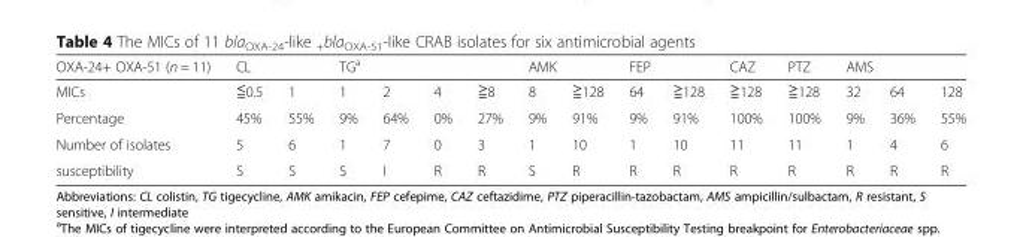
<table><thead><tr><td rowspan="2">OXA-24+ OXA-51 (n = 11) MICs</td><td colspan="2">CL</td><td colspan="4">TG<sup>a</sup></td><td colspan="2">AMK</td><td colspan="2">FEP</td><td rowspan="2">CAZ ≧128</td><td rowspan="2">PTZ ≧128</td><td colspan="3">AMS</td></tr><tr><td>≦0.5</td><td>1</td><td>1</td><td>2</td><td>4</td><td>≧8</td><td>8</td><td>≧128</td><td>64</td><td>≧128</td><td>32</td><td>64</td><td>128</td></tr></thead><tbody><tr><td>Percentage</td><td>45%</td><td>55%</td><td>9%</td><td>64%</td><td>0%</td><td>27%</td><td>9%</td><td>91%</td><td>9%</td><td>91%</td><td>100%</td><td>100%</td><td>9%</td><td>36%</td><td>55%</td></tr><tr><td>Number of isolates</td><td>5</td><td>6</td><td>1</td><td>7</td><td>0</td><td>3</td><td>1</td><td>10</td><td>1</td><td>10</td><td>11</td><td>11</td><td>1</td><td>4</td><td>6</td></tr><tr><td>susceptibility</td><td>S</td><td>S</td><td>S</td><td>I</td><td>R</td><td>R</td><td>S</td><td>R</td><td>R</td><td>R</td><td>R</td><td>R</td><td>R</td><td>R</td><td>R</td></tr></tbody></table>